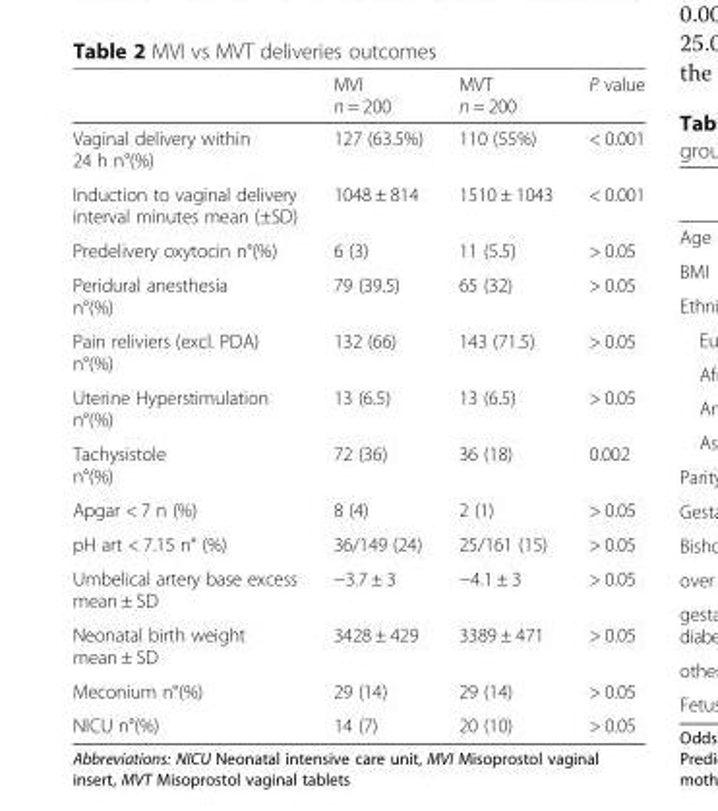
<table><thead><tr><td></td><td>MVI n = 200</td><td>MVT n = 200</td><td>P value</td></tr></thead><tbody><tr><td>Vaginal delivery within 24 h n°(%)</td><td>127 (63.5%)</td><td>110 (55%)</td><td>&lt; 0.001</td></tr><tr><td>Induction to vaginal delivery interval minutes mean (±SD)</td><td>1048 ± 814</td><td>1510 ± 1043</td><td>&lt; 0.001</td></tr><tr><td>Predelivery oxytocin n°(%)</td><td>6 (3)</td><td>11 (5.5)</td><td>&gt; 0.05</td></tr><tr><td>Peridural anesthesia n°(%)</td><td>79 (39.5)</td><td>65 (32)</td><td>&gt; 0.05</td></tr><tr><td>Pain reliviers (excl. PDA) n°(%)</td><td>132 (66)</td><td>143 (71.5)</td><td>&gt; 0.05</td></tr><tr><td>Uterine Hyperstimulation n°(%)</td><td>13 (6.5)</td><td>13 (6.5)</td><td>&gt; 0.05</td></tr><tr><td>Tachysistole n°(%)</td><td>72 (36)</td><td>36 (18)</td><td>0.002</td></tr><tr><td>Apgar &lt; 7 n (%)</td><td>8 (4)</td><td>2 (1)</td><td>&gt; 0.05</td></tr><tr><td>pH art &lt; 7.15 n° (%)</td><td>36/149 (24)</td><td>25/161 (15)</td><td>&gt; 0.05</td></tr><tr><td>Umbelical artery base excess mean ± SD</td><td>−3.7 ± 3</td><td>−4.1 ± 3</td><td>&gt; 0.05</td></tr><tr><td>Neonatal birth weight mean ± SD</td><td>3428 ± 429</td><td>3389 ± 471</td><td>&gt; 0.05</td></tr><tr><td>Meconium n°(%)</td><td>29 (14)</td><td>29 (14)</td><td>&gt; 0.05</td></tr><tr><td>NICU n°(%)</td><td>14 (7)</td><td>20 (10)</td><td>&gt; 0.05</td></tr></tbody></table>